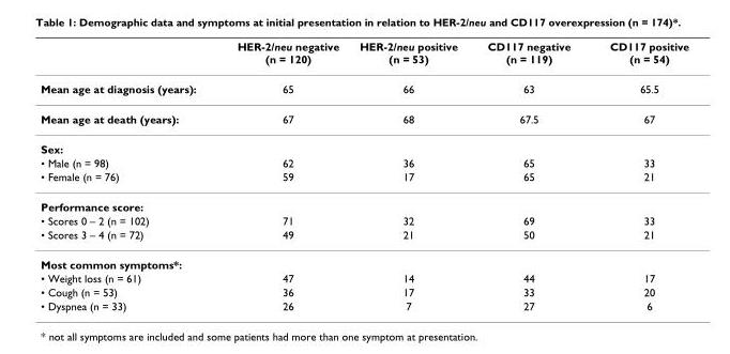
<table><thead><tr><td></td><td>HER-2/neu negative (n = 120)</td><td>HER-2/neu positive (n = 53)</td><td>CD117 negative (n = 119)</td><td>CD117 positive (n = 54)</td></tr></thead><tbody><tr><td>Mean age at diagnosis (years):</td><td>65</td><td>66</td><td>63</td><td>65.5</td></tr><tr><td>Mean age at death (years):</td><td>67</td><td>68</td><td>67.5</td><td>67</td></tr><tr><td colspan="5">Sex:</td></tr><tr><td>• Male (n = 98)</td><td>62</td><td>36</td><td>65</td><td>33</td></tr><tr><td>• Female (n = 76)</td><td>59</td><td>17</td><td>65</td><td>21</td></tr><tr><td colspan="5">Performance score:</td></tr><tr><td>• Scores 0 – 2 (n = 102)</td><td>71</td><td>32</td><td>69</td><td>33</td></tr><tr><td>• Scores 3 – 4 (n = 72)</td><td>49</td><td>21</td><td>50</td><td>21</td></tr><tr><td colspan="5">Most common symptoms*:</td></tr><tr><td>• Weight loss (n = 61)</td><td>47</td><td>14</td><td>44</td><td>17</td></tr><tr><td>• Cough (n = 53)</td><td>36</td><td>17</td><td>33</td><td>20</td></tr><tr><td>• Dyspnea (n = 33)</td><td>26</td><td>7</td><td>27</td><td>6</td></tr></tbody></table>